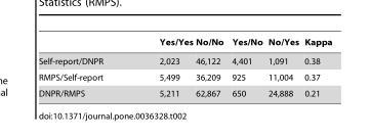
<table><thead><tr><td></td><td>Yes/Yes</td><td>No/No</td><td>Yes/No</td><td>No/Yes</td><td>Kappa</td></tr></thead><tbody><tr><td>Self-report/DNPR</td><td>2,023</td><td>46,122</td><td>4,401</td><td>1,091</td><td>0.38</td></tr><tr><td>RMPS/Self-report</td><td>5,499</td><td>36,209</td><td>925</td><td>11,004</td><td>0.37</td></tr><tr><td>DNPR/RMPS</td><td>5,211</td><td>62,867</td><td>650</td><td>24,888</td><td>0.21</td></tr></tbody></table>